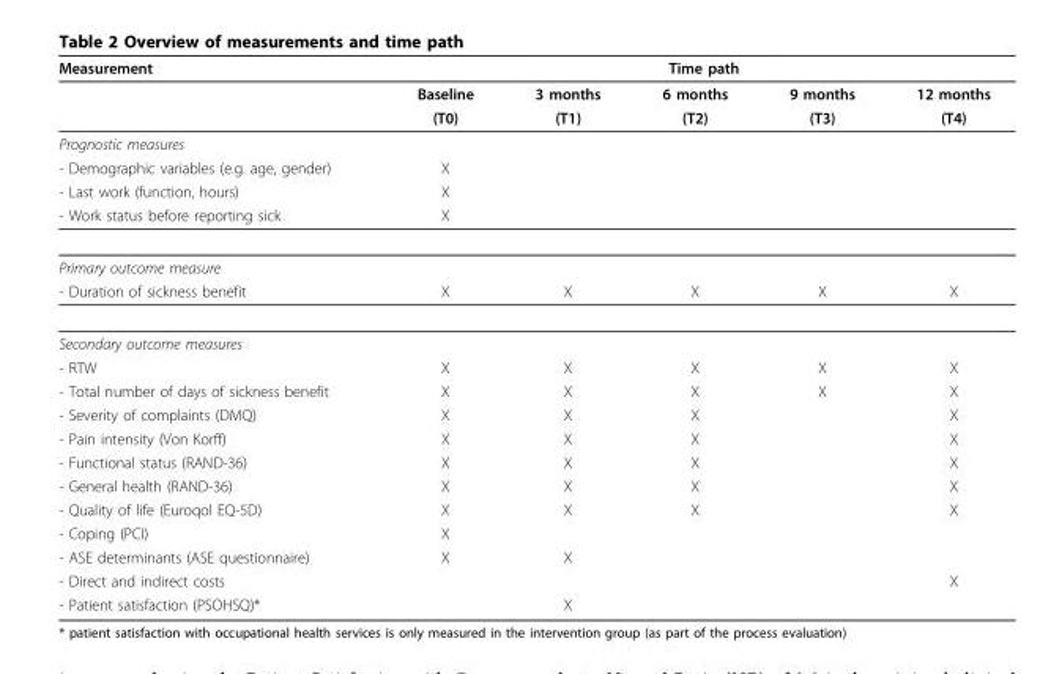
<table><thead><tr><td rowspan="2">Measurement</td><td colspan="5">Time path</td></tr><tr><td>Baseline</td><td>3 months</td><td>6 months</td><td>9 months</td><td>12 months</td></tr></thead><tbody><tr><td></td><td>(T0)</td><td>(T1)</td><td>(T2)</td><td>(T3)</td><td>(T4)</td></tr><tr><td colspan="6">Prognostic measures</td></tr><tr><td>- Demographic variables (e.g. age, gender)</td><td>X</td><td></td><td></td><td></td><td></td></tr><tr><td>- Last work (function, hours)</td><td>X</td><td></td><td></td><td></td><td></td></tr><tr><td>- Work status before reporting sick</td><td>X</td><td></td><td></td><td></td><td></td></tr><tr><td colspan="6">Primary outcome measure</td></tr><tr><td>- Duration of sickness benefit</td><td>X</td><td>X</td><td>X</td><td>X</td><td>X</td></tr><tr><td colspan="6">Secondary outcome measures</td></tr><tr><td>- RTW</td><td>X</td><td>X</td><td>X</td><td>X</td><td>X</td></tr><tr><td>- Total number of days of sickness benefit</td><td>X</td><td>X</td><td>X</td><td>X</td><td>X</td></tr><tr><td>- Severity of complaints (DMQ)</td><td>X</td><td>X</td><td>X</td><td></td><td>X</td></tr><tr><td>- Pain intensity (Von Korff)</td><td>X</td><td>X</td><td>X</td><td></td><td>X</td></tr><tr><td>- Functional status (RAND-36)</td><td>X</td><td>X</td><td>X</td><td></td><td>X</td></tr><tr><td>- General health (RAND-36)</td><td>X</td><td>X</td><td>X</td><td></td><td>X</td></tr><tr><td>- Quality of life (Euroqol EQ-5D)</td><td>X</td><td>X</td><td>X</td><td></td><td>X</td></tr><tr><td>- Coping (PCI)</td><td>X</td><td></td><td></td><td></td><td></td></tr><tr><td>- ASE determinants (ASE questionnaire)</td><td>X</td><td>X</td><td></td><td></td><td></td></tr><tr><td>- Direct and indirect costs</td><td></td><td></td><td></td><td></td><td>X</td></tr><tr><td>- Patient satisfaction (PSOHSQ)*</td><td></td><td>X</td><td></td><td></td><td></td></tr></tbody></table>